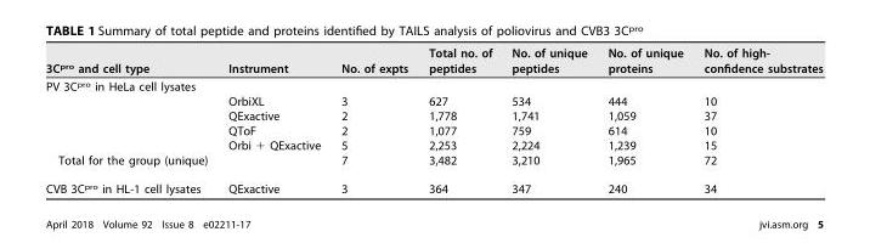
<table><thead><tr><td>3C<sup>pro</sup> and cell type</td><td>Instrument</td><td>No. of expts</td><td>Total no. of peptides</td><td>No. of unique peptides</td><td>No. of unique proteins</td><td>No. of high- confidence substrates</td></tr></thead><tbody><tr><td colspan="7">PV 3C<sup>pro</sup> in HeLa cell lysates</td></tr><tr><td></td><td>OrbiXL</td><td>3</td><td>627</td><td>534</td><td>444</td><td>10</td></tr><tr><td></td><td>QExactive</td><td>2</td><td>1,778</td><td>1,741</td><td>1,059</td><td>37</td></tr><tr><td></td><td>QToF</td><td>2</td><td>1,077</td><td>759</td><td>614</td><td>10</td></tr><tr><td></td><td>Orbi + QExactive</td><td>5</td><td>2,253</td><td>2,224</td><td>1,239</td><td>15</td></tr><tr><td>Total for the group (unique)</td><td></td><td>7</td><td>3,482</td><td>3,210</td><td>1,965</td><td>72</td></tr><tr><td>CVB 3C<sup>pro</sup> in HL-1 cell lysates</td><td>QExactive</td><td>3</td><td>364</td><td>347</td><td>240</td><td>34</td></tr></tbody></table>